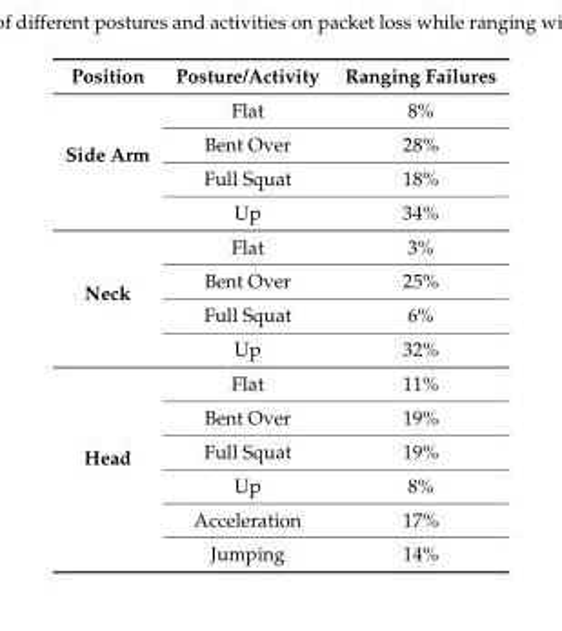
<table><thead><tr><td>Position</td><td>Posture/Activity</td><td>Ranging Failures</td></tr></thead><tbody><tr><td rowspan="4">Side Arm</td><td>Flat</td><td>8%</td></tr><tr><td>Bent Over</td><td>28%</td></tr><tr><td>Full Squat</td><td>18%</td></tr><tr><td>Up</td><td>34%</td></tr><tr><td rowspan="4">Neck</td><td>Flat</td><td>3%</td></tr><tr><td>Bent Over</td><td>25%</td></tr><tr><td>Full Squat</td><td>6%</td></tr><tr><td>Up</td><td>32%</td></tr><tr><td rowspan="6">Head</td><td>Flat</td><td>11%</td></tr><tr><td>Bent Over</td><td>19%</td></tr><tr><td>Full Squat</td><td>19%</td></tr><tr><td>Up</td><td>8%</td></tr><tr><td>Acceleration</td><td>17%</td></tr><tr><td>Jumping</td><td>14%</td></tr></tbody></table>